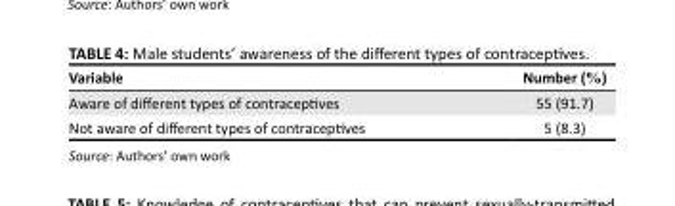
<table><thead><tr><td>Variable</td><td>Number (%)</td></tr></thead><tbody><tr><td>Aware of different types of contraceptives</td><td>55 (91.7)</td></tr><tr><td>Not aware of different types of contraceptives</td><td>5 (8.3)</td></tr></tbody></table>